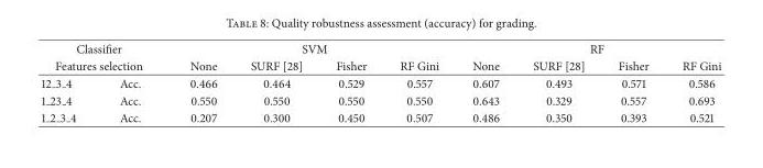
<table><thead><tr><td rowspan="2" colspan="2">Classifier Features selection</td><td colspan="4">SVM</td><td colspan="4">RF</td></tr><tr><td rowspan="2">None 0.466</td><td rowspan="2">SURF [28] 0.464</td><td rowspan="2">Fisher 0.529</td><td rowspan="2">RF Gini 0.557</td><td rowspan="2">None 0.607</td><td rowspan="2">SURF [28] 0.493</td><td rowspan="2">Fisher 0.571</td><td rowspan="2">RF Gini 0.586</td></tr><tr><td>12 3 4</td><td>Acc.</td></tr></thead><tbody><tr><td>1 23 4</td><td>Acc.</td><td>0.550</td><td>0.550</td><td>0.550</td><td>0.550</td><td>0.643</td><td>0.329</td><td>0.557</td><td>0.693</td></tr><tr><td>1 2 3 4</td><td>Acc.</td><td>0.207</td><td>0.300</td><td>0.450</td><td>0.507</td><td>0.486</td><td>0.350</td><td>0.393</td><td>0.521</td></tr></tbody></table>